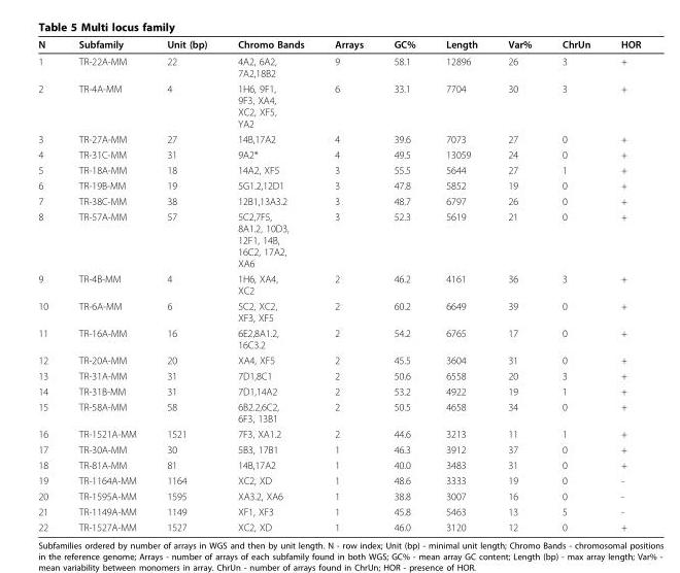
<table><thead><tr><td>N</td><td>Subfamily</td><td>Unit (bp)</td><td>Chromo Bands</td><td>Arrays</td><td>GC%</td><td>Length</td><td>Var%</td><td>ChrUn</td><td>HOR</td></tr></thead><tbody><tr><td>1</td><td>TR-22A-MM</td><td>22</td><td>4A2, 6A2, 7A2,18B2</td><td>9</td><td>58.1</td><td>12896</td><td>26</td><td>3</td><td>+</td></tr><tr><td>2</td><td>TR-4A-MM</td><td>4</td><td>1H6, 9F1, 9F3, XA4, XC2, XF5, YA2</td><td>6</td><td>33.1</td><td>7704</td><td>30</td><td>3</td><td>+</td></tr><tr><td>3</td><td>TR-27A-MM</td><td>27</td><td>14B,17A2</td><td>4</td><td>39.6</td><td>7073</td><td>27</td><td>0</td><td>+</td></tr><tr><td>4</td><td>TR-31C-MM</td><td>31</td><td>9A2*</td><td>4</td><td>49.5</td><td>13059</td><td>24</td><td>0</td><td>+</td></tr><tr><td>5</td><td>TR-18A-MM</td><td>18</td><td>14A2, XF5</td><td>3</td><td>55.5</td><td>5644</td><td>27</td><td>1</td><td>+</td></tr><tr><td>6</td><td>TR-19B-MM</td><td>19</td><td>5G1.2,12D1</td><td>3</td><td>47.8</td><td>5852</td><td>19</td><td>0</td><td>+</td></tr><tr><td>7</td><td>TR-38C-MM</td><td>38</td><td>12B1,13A3.2</td><td>3</td><td>48.7</td><td>6797</td><td>26</td><td>0</td><td>+</td></tr><tr><td>8</td><td>TR-57A-MM</td><td>57</td><td>5C2,7F5, 8A1.2, 10D3, 12F1, 14B, 16C2, 17A2, XA6</td><td>3</td><td>52.3</td><td>5619</td><td>21</td><td>0</td><td>+</td></tr><tr><td>9</td><td>TR-4B-MM</td><td>4</td><td>1H6, XA4, XC2</td><td>2</td><td>46.2</td><td>4161</td><td>36</td><td>3</td><td>+</td></tr><tr><td>10</td><td>TR-6A-MM</td><td>6</td><td>5C2, XC2, XF3, XF5</td><td>2</td><td>60.2</td><td>6649</td><td>39</td><td>0</td><td>+</td></tr><tr><td>11</td><td>TR-16A-MM</td><td>16</td><td>6E2,8A1.2, 16C3.2</td><td>2</td><td>54.2</td><td>6765</td><td>17</td><td>0</td><td>+</td></tr><tr><td>12</td><td>TR-20A-MM</td><td>20</td><td>XA4, XF5</td><td>2</td><td>45.5</td><td>3604</td><td>31</td><td>0</td><td>+</td></tr><tr><td>13</td><td>TR-31A-MM</td><td>31</td><td>7D1,8C1</td><td>2</td><td>50.6</td><td>6558</td><td>20</td><td>3</td><td>+</td></tr><tr><td>14</td><td>TR-31B-MM</td><td>31</td><td>7D1,14A2</td><td>2</td><td>53.2</td><td>4922</td><td>19</td><td>1</td><td>+</td></tr><tr><td>15</td><td>TR-58A-MM</td><td>58</td><td>6B2.2,6C2, 6F3, 13B1</td><td>2</td><td>50.5</td><td>4658</td><td>34</td><td>0</td><td>+</td></tr><tr><td>16</td><td>TR-1521A-MM</td><td>1521</td><td>7F3, XA1.2</td><td>2</td><td>44.6</td><td>3213</td><td>11</td><td>1</td><td>+</td></tr><tr><td>17</td><td>TR-30A-MM</td><td>30</td><td>5B3, 17B1</td><td>1</td><td>46.3</td><td>3912</td><td>37</td><td>0</td><td>+</td></tr><tr><td>18</td><td>TR-81A-MM</td><td>81</td><td>14B,17A2</td><td>1</td><td>40.0</td><td>3483</td><td>31</td><td>0</td><td>+</td></tr><tr><td>19</td><td>TR-1164A-MM</td><td>1164</td><td>XC2, XD</td><td>1</td><td>48.6</td><td>3333</td><td>19</td><td>0</td><td>-</td></tr><tr><td>20</td><td>TR-1595A-MM</td><td>1595</td><td>XA3.2, XA6</td><td>1</td><td>38.8</td><td>3007</td><td>16</td><td>0</td><td>-</td></tr><tr><td>21</td><td>TR-1149A-MM</td><td>1149</td><td>XF1, XF3</td><td>1</td><td>45.8</td><td>5463</td><td>13</td><td>5</td><td>-</td></tr><tr><td>22</td><td>TR-1527A-MM</td><td>1527</td><td>XC2, XD</td><td>1</td><td>46.0</td><td>3120</td><td>12</td><td>0</td><td>+</td></tr></tbody></table>